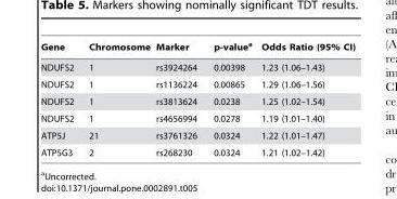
<table><thead><tr><td>Gene</td><td>Chromosome</td><td>Marker</td><td>p-value<sup>a</sup></td><td>Odds Ratio (95% CI)</td></tr></thead><tbody><tr><td>NDUFS2</td><td>1</td><td>rs3924264</td><td>0.00398</td><td>1.23 (1.06–1.43)</td></tr><tr><td>NDUFS2</td><td>1</td><td>rs1136224</td><td>0.00865</td><td>1.29 (1.06–1.56)</td></tr><tr><td>NDUFS2</td><td>1</td><td>rs3813624</td><td>0.0238</td><td>1.25 (1.02–1.54)</td></tr><tr><td>NDUFS2</td><td>1</td><td>rs4656994</td><td>0.0278</td><td>1.19 (1.01–1.40)</td></tr><tr><td>ATP5J</td><td>21</td><td>rs3761326</td><td>0.0324</td><td>1.22 (1.01–1.47)</td></tr><tr><td>ATP5G3</td><td>2</td><td>rs268230</td><td>0.0324</td><td>1.21 (1.02–1.42)</td></tr></tbody></table>